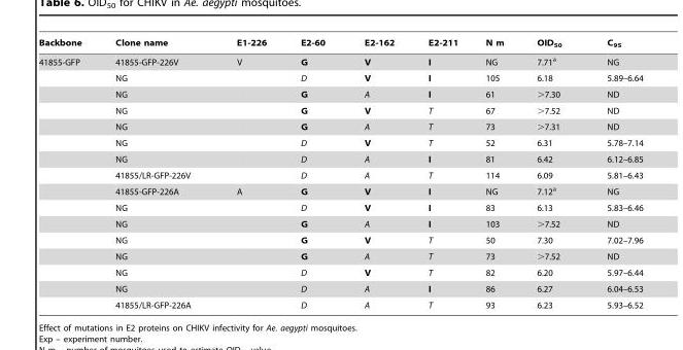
<table><thead><tr><td>Backbone</td><td>Clone name</td><td>E1-226</td><td>E2-60</td><td>E2-162</td><td>E2-211</td><td>N m</td><td>OID<sub>50</sub></td><td>C<sub>95</sub></td></tr></thead><tbody><tr><td rowspan="16">41855-GFP</td><td>41855-GFP-226V</td><td>V</td><td>G</td><td>V</td><td>I</td><td>NG</td><td>7.71<sup>a</sup></td><td>NG</td></tr><tr><td>NG</td><td></td><td>D</td><td>V</td><td>I</td><td>105</td><td>6.18</td><td>5.89–6.64</td></tr><tr><td>NG</td><td></td><td>G</td><td>A</td><td>I</td><td>61</td><td>&gt;7.30</td><td>ND</td></tr><tr><td>NG</td><td></td><td>G</td><td>V</td><td>T</td><td>67</td><td>&gt;7.52</td><td>ND</td></tr><tr><td>NG</td><td></td><td>G</td><td>A</td><td>T</td><td>73</td><td>&gt;7.31</td><td>ND</td></tr><tr><td>NG</td><td></td><td>D</td><td>V</td><td>T</td><td>52</td><td>6.31</td><td>5.78–7.14</td></tr><tr><td>NG</td><td></td><td>D</td><td>A</td><td>I</td><td>81</td><td>6.42</td><td>6.12–6.85</td></tr><tr><td>41855/LR-GFP-226V</td><td></td><td>D</td><td>A</td><td>T</td><td>114</td><td>6.09</td><td>5.81–6.43</td></tr><tr><td>41855-GFP-226A</td><td>A</td><td>G</td><td>V</td><td>I</td><td>NG</td><td>7.12<sup>a</sup></td><td>NG</td></tr><tr><td>NG</td><td></td><td>D</td><td>V</td><td>I</td><td>83</td><td>6.13</td><td>5.83–6.46</td></tr><tr><td>NG</td><td></td><td>G</td><td>A</td><td>I</td><td>103</td><td>&gt;7.52</td><td>ND</td></tr><tr><td>NG</td><td></td><td>G</td><td>V</td><td>T</td><td>50</td><td>7.30</td><td>7.02–7.96</td></tr><tr><td>NG</td><td></td><td>G</td><td>A</td><td>T</td><td>73</td><td>&gt;7.52</td><td>ND</td></tr><tr><td>NG</td><td></td><td>D</td><td>V</td><td>T</td><td>82</td><td>6.20</td><td>5.97–6.44</td></tr><tr><td>NG</td><td></td><td>D</td><td>A</td><td>I</td><td>86</td><td>6.27</td><td>6.04–6.53</td></tr><tr><td>41855/LR-GFP-226A</td><td></td><td>D</td><td>A</td><td>T</td><td>93</td><td>6.23</td><td>5.93–6.52</td></tr></tbody></table>